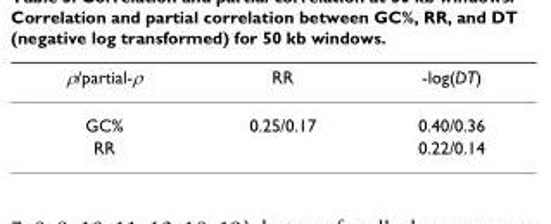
<table><thead><tr><td>ρ/partial-ρ</td><td>RR</td><td>-log(DT)</td></tr></thead><tbody><tr><td>GC%</td><td>0.25/0.17</td><td>0.40/0.36</td></tr><tr><td>RR</td><td></td><td>0.22/0.14</td></tr></tbody></table>